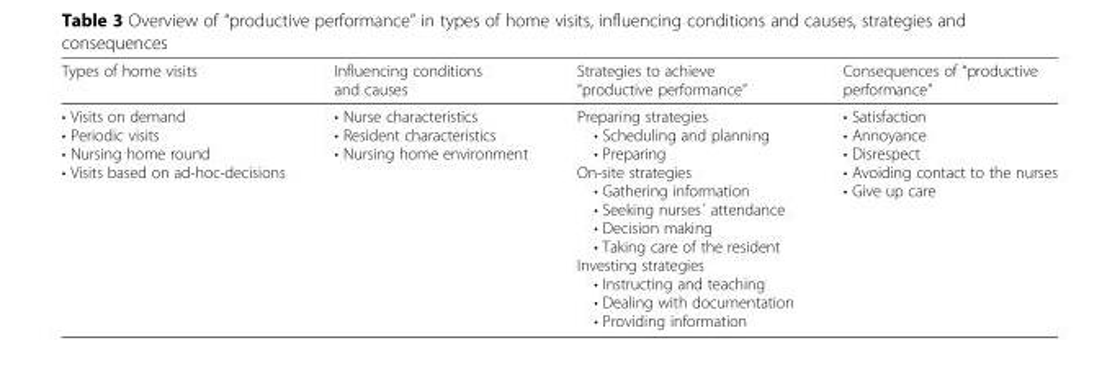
<table><thead><tr><td>Types of home visits</td><td>Influencing conditions and causes</td><td>Strategies to achieve “productive performance”</td><td>Consequences of “productive performance”</td></tr></thead><tbody><tr><td>• Visits on demand • Periodic visits • Nursing home round • Visits based on ad-hoc-decisions</td><td>• Nurse characteristics • Resident characteristics • Nursing home environment</td><td>Preparing strategies • Scheduling and planning • Preparing On-site strategies • Gathering information • Seeking nurses´ attendance • Decision making • Taking care of the resident Investing strategies • Instructing and teaching • Dealing with documentation • Providing information</td><td>• Satisfaction • Annoyance • Disrespect • Avoiding contact to the nurses • Give up care</td></tr></tbody></table>